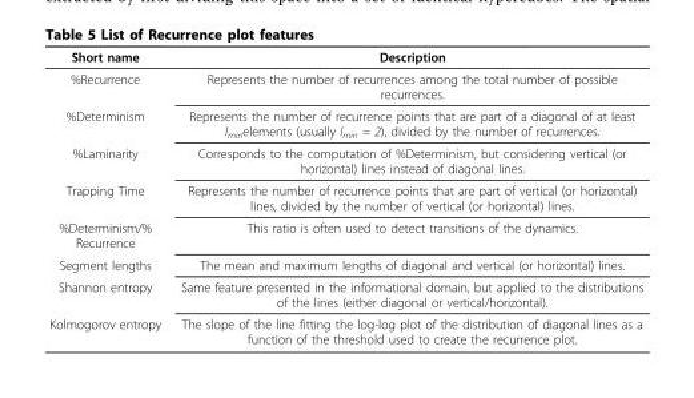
<table><thead><tr><td>Short name</td><td>Description</td></tr></thead><tbody><tr><td>%Recurrence</td><td>Represents the number of recurrences among the total number of possible recurrences.</td></tr><tr><td>%Determinism</td><td>Represents the number of recurrence points that are part of a diagonal of at least l<sub>min</sub>elements (usually l<sub>min</sub> = 2), divided by the number of recurrences.</td></tr><tr><td>%Laminarity</td><td>Corresponds to the computation of %Determinism, but considering vertical (or horizontal) lines instead of diagonal lines.</td></tr><tr><td>Trapping Time</td><td>Represents the number of recurrence points that are part of vertical (or horizontal) lines, divided by the number of vertical (or horizontal) lines.</td></tr><tr><td>%Determinism/% Recurrence</td><td>This ratio is often used to detect transitions of the dynamics.</td></tr><tr><td>Segment lengths</td><td>The mean and maximum lengths of diagonal and vertical (or horizontal) lines.</td></tr><tr><td>Shannon entropy</td><td>Same feature presented in the informational domain, but applied to the distributions of the lines (either diagonal or vertical/horizontal).</td></tr><tr><td>Kolmogorov entropy</td><td>The slope of the line fitting the log-log plot of the distribution of diagonal lines as a function of the threshold used to create the recurrence plot.</td></tr></tbody></table>